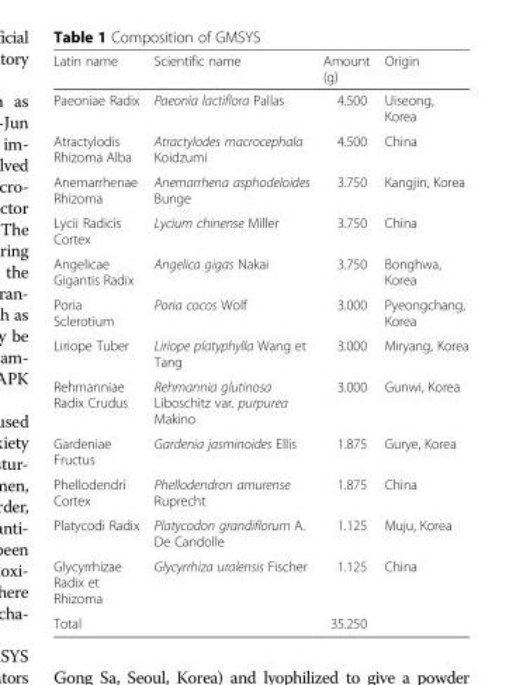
<table><thead><tr><td>Latin name</td><td>Scientific name</td><td>Amount (g)</td><td>Origin</td></tr></thead><tbody><tr><td>Paeoniae Radix</td><td>Paeonia lactiflora Pallas</td><td>4.500</td><td>Uiseong, Korea</td></tr><tr><td>Atractylodis Rhizoma Alba</td><td>Atractylodes macrocephala Koidzumi</td><td>4.500</td><td>China</td></tr><tr><td>Anemarrhenae Rhizoma</td><td>Anemarrhena asphodeloides Bunge</td><td>3.750</td><td>Kangjin, Korea</td></tr><tr><td>Lycii Radicis Cortex</td><td>Lycium chinense Miller</td><td>3.750</td><td>China</td></tr><tr><td>Angelicae Gigantis Radix</td><td>Angelica gigas Nakai</td><td>3.750</td><td>Bonghwa, Korea</td></tr><tr><td>Poria Sclerotium</td><td>Poria cocos Wolf</td><td>3.000</td><td>Pyeongchang, Korea</td></tr><tr><td>Liriope Tuber</td><td>Liriope platyphylla Wang et Tang</td><td>3.000</td><td>Miryang, Korea</td></tr><tr><td>Rehmanniae Radix Crudus</td><td>Rehmannia glutinosa Liboschitz var. purpurea Makino</td><td>3.000</td><td>Gunwi, Korea</td></tr><tr><td>Gardeniae Fructus</td><td>Gardenia jasminoides Ellis</td><td>1.875</td><td>Gurye, Korea</td></tr><tr><td>Phellodendri Cortex</td><td>Phellodendron amurense Ruprecht</td><td>1.875</td><td>China</td></tr><tr><td>Platycodi Radix</td><td>Platycodon grandiflorum A. De Candolle</td><td>1.125</td><td>Muju, Korea</td></tr><tr><td>Glycyrrhizae Radix et Rhizoma</td><td>Glycyrrhiza uralensis Fischer</td><td>1.125</td><td>China</td></tr><tr><td>Total</td><td></td><td>35.250</td><td></td></tr></tbody></table>